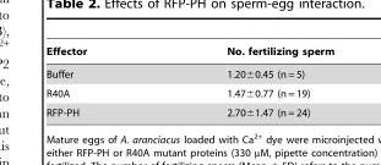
<table><thead><tr><td>Effector</td><td>No. fertilizing sperm</td></tr></thead><tbody><tr><td>Buffer</td><td>1.20±0.45 (n = 5)</td></tr><tr><td>R40A</td><td>1.47±0.77 (n = 19)</td></tr><tr><td>RFP-PH</td><td>2.70±1.47 (n = 24)</td></tr></tbody></table>